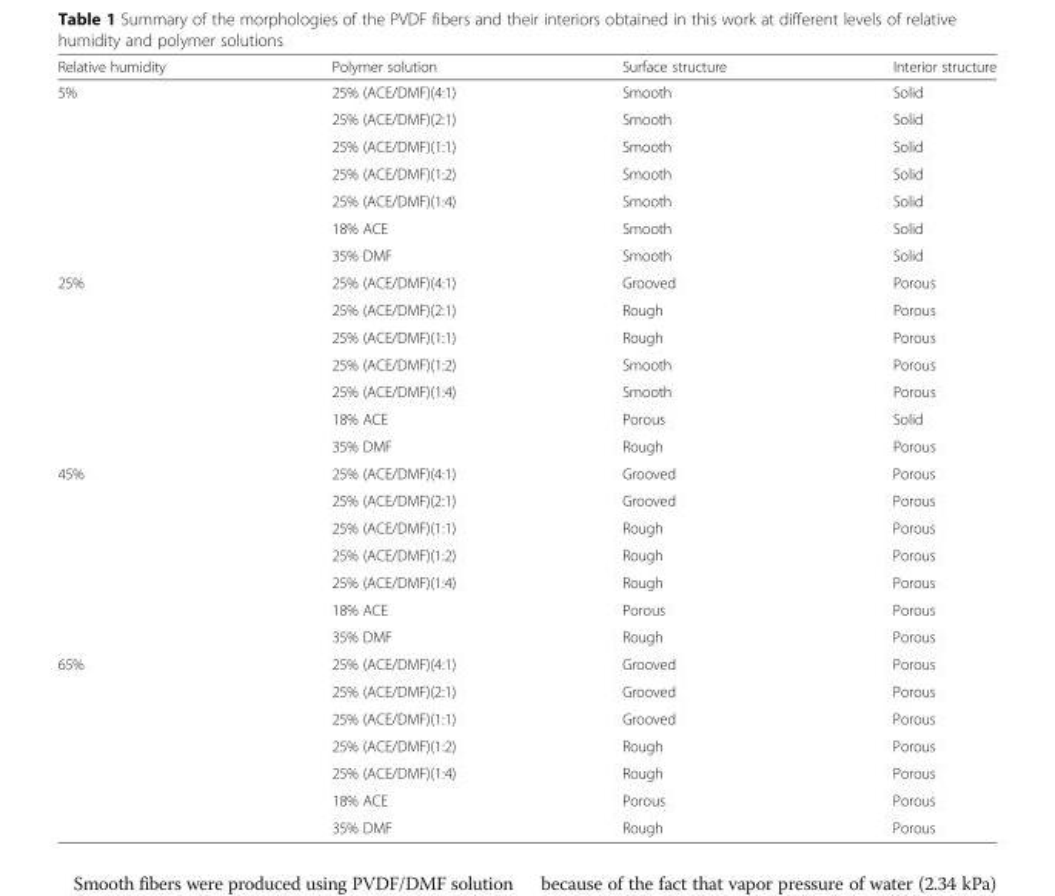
<table><thead><tr><td>Relative humidity</td><td>Polymer solution</td><td>Surface structure</td><td>Interior structure</td></tr></thead><tbody><tr><td rowspan="7">5%</td><td>25% (ACE/DMF)(4:1)</td><td>Smooth</td><td>Solid</td></tr><tr><td>25% (ACE/DMF)(2:1)</td><td>Smooth</td><td>Solid</td></tr><tr><td>25% (ACE/DMF)(1:1)</td><td>Smooth</td><td>Solid</td></tr><tr><td>25% (ACE/DMF)(1:2)</td><td>Smooth</td><td>Solid</td></tr><tr><td>25% (ACE/DMF)(1:4)</td><td>Smooth</td><td>Solid</td></tr><tr><td>18% ACE</td><td>Smooth</td><td>Solid</td></tr><tr><td>35% DMF</td><td>Smooth</td><td>Solid</td></tr><tr><td rowspan="7">25%</td><td>25% (ACE/DMF)(4:1)</td><td>Grooved</td><td>Porous</td></tr><tr><td>25% (ACE/DMF)(2:1)</td><td>Rough</td><td>Porous</td></tr><tr><td>25% (ACE/DMF)(1:1)</td><td>Rough</td><td>Porous</td></tr><tr><td>25% (ACE/DMF)(1:2)</td><td>Smooth</td><td>Porous</td></tr><tr><td>25% (ACE/DMF)(1:4)</td><td>Smooth</td><td>Porous</td></tr><tr><td>18% ACE</td><td>Porous</td><td>Solid</td></tr><tr><td>35% DMF</td><td>Rough</td><td>Porous</td></tr><tr><td rowspan="7">45%</td><td>25% (ACE/DMF)(4:1)</td><td>Grooved</td><td>Porous</td></tr><tr><td>25% (ACE/DMF)(2:1)</td><td>Grooved</td><td>Porous</td></tr><tr><td>25% (ACE/DMF)(1:1)</td><td>Rough</td><td>Porous</td></tr><tr><td>25% (ACE/DMF)(1:2)</td><td>Rough</td><td>Porous</td></tr><tr><td>25% (ACE/DMF)(1:4)</td><td>Rough</td><td>Porous</td></tr><tr><td>18% ACE</td><td>Porous</td><td>Porous</td></tr><tr><td>35% DMF</td><td>Rough</td><td>Porous</td></tr><tr><td rowspan="7">65%</td><td>25% (ACE/DMF)(4:1)</td><td>Grooved</td><td>Porous</td></tr><tr><td>25% (ACE/DMF)(2:1)</td><td>Grooved</td><td>Porous</td></tr><tr><td>25% (ACE/DMF)(1:1)</td><td>Grooved</td><td>Porous</td></tr><tr><td>25% (ACE/DMF)(1:2)</td><td>Rough</td><td>Porous</td></tr><tr><td>25% (ACE/DMF)(1:4)</td><td>Rough</td><td>Porous</td></tr><tr><td>18% ACE</td><td>Porous</td><td>Porous</td></tr><tr><td>35% DMF</td><td>Rough</td><td>Porous</td></tr></tbody></table>